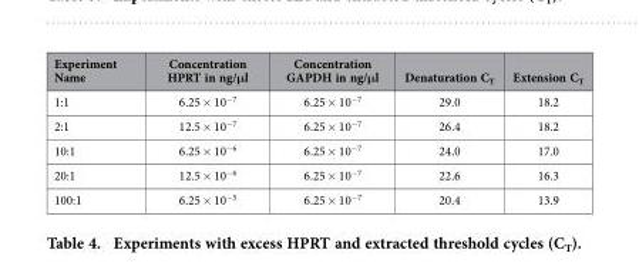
<table><thead><tr><td>Experiment Name</td><td>Concentration HPRT in ng/μl</td><td>Concentration GAPDH in ng/μl</td><td>Denaturation C<sub>T</sub></td><td>Extension C<sub>T</sub></td></tr></thead><tbody><tr><td>1:1</td><td>6.25 × 10<sup>−7</sup></td><td>6.25 × 10<sup>−7</sup></td><td>29.0</td><td>18.2</td></tr><tr><td>2:1</td><td>12.5 × 10<sup>−7</sup></td><td>6.25 × 10<sup>−7</sup></td><td>26.4</td><td>18.2</td></tr><tr><td>10:1</td><td>6.25 × 10<sup>−6</sup></td><td>6.25 × 10<sup>−7</sup></td><td>24.0</td><td>17.0</td></tr><tr><td>20:1</td><td>12.5 × 10<sup>−6</sup></td><td>6.25 × 10<sup>−7</sup></td><td>22.6</td><td>16.3</td></tr><tr><td>100:1</td><td>6.25 × 10<sup>−5</sup></td><td>6.25 × 10<sup>−7</sup></td><td>20.4</td><td>13.9</td></tr></tbody></table>